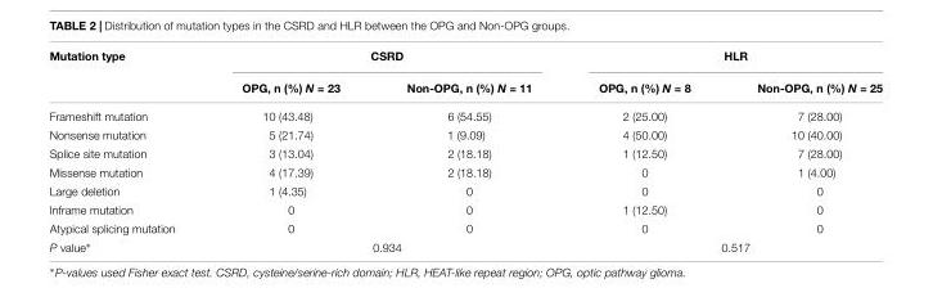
<table><thead><tr><td rowspan="2">Mutation type</td><td colspan="2">CSRD</td><td colspan="2">HLR</td></tr><tr><td>OPG, n (%) N = 23</td><td>Non-OPG, n (%) N = 11</td><td>OPG, n (%) N = 8</td><td>Non-OPG, n (%) N = 25</td></tr></thead><tbody><tr><td>Frameshift mutation</td><td>10 (43.48)</td><td>6 (54.55)</td><td>2 (25.00)</td><td>7 (28.00)</td></tr><tr><td>Nonsense mutation</td><td>5 (21.74)</td><td>1 (9.09)</td><td>4 (50.00)</td><td>10 (40.00)</td></tr><tr><td>Splice site mutation</td><td>3 (13.04)</td><td>2 (18.18)</td><td>1 (12.50)</td><td>7 (28.00)</td></tr><tr><td>Missense mutation</td><td>4 (17.39)</td><td>2 (18.18)</td><td>0</td><td>1 (4.00)</td></tr><tr><td>Large deletion</td><td>1 (4.35)</td><td>0</td><td>0</td><td>0</td></tr><tr><td>Inframe mutation</td><td>0</td><td>0</td><td>1 (12.50)</td><td>0</td></tr><tr><td>Atypical splicing mutation</td><td>0</td><td>0</td><td>0</td><td>0</td></tr><tr><td>P value∗</td><td colspan="2">0.934</td><td colspan="2">0.517</td></tr></tbody></table>